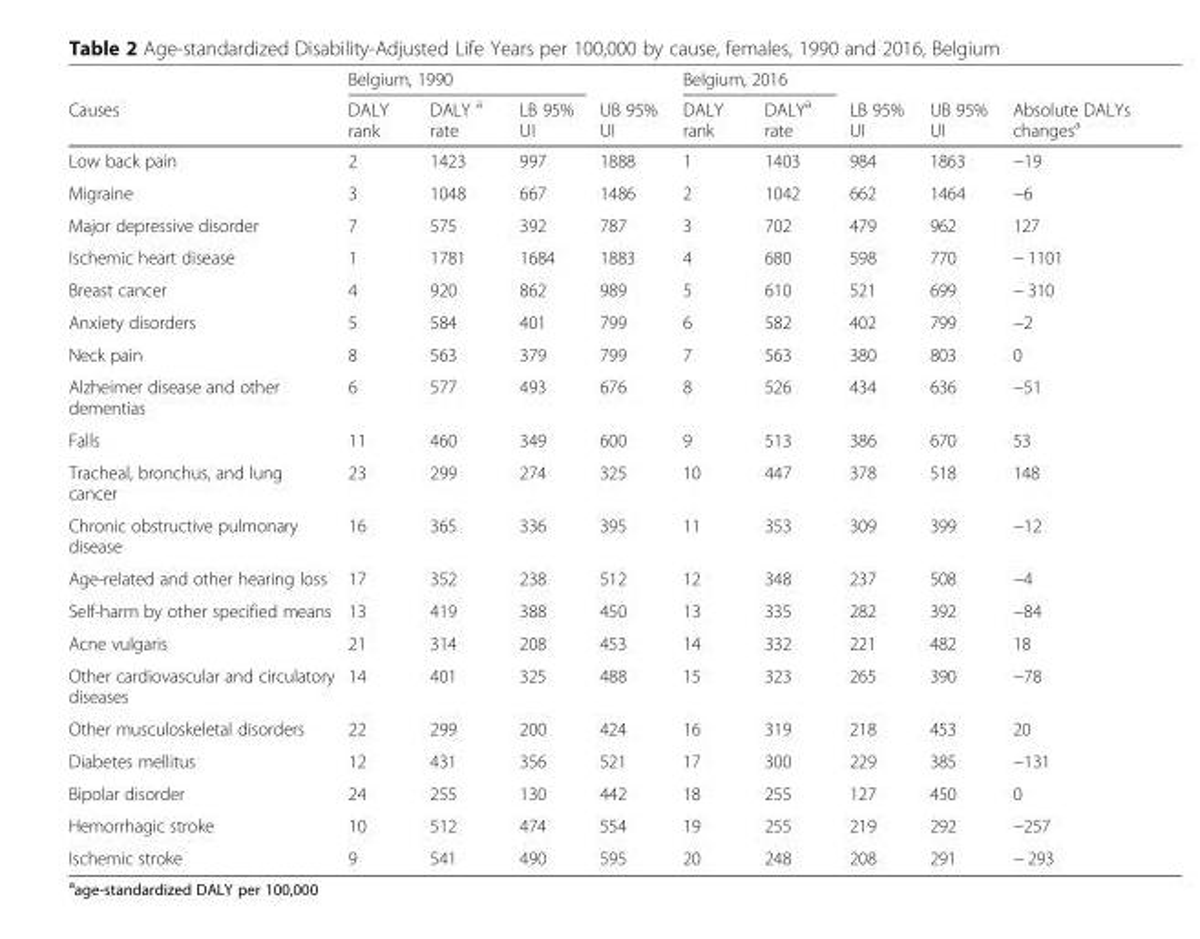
<table><thead><tr><td rowspan="2">Causes</td><td colspan="3">Belgium, 1990</td><td rowspan="2">UB 95% UI</td><td colspan="2">Belgium, 2016</td><td rowspan="2">LB 95% UI</td><td rowspan="2">UB 95% UI</td><td rowspan="2">Absolute DALYs changes<sup>a</sup></td></tr><tr><td>DALY rank</td><td>DALY <sup>a</sup> rate</td><td>LB 95% UI</td><td>DALY rank</td><td>DALY<sup>a</sup> rate</td></tr></thead><tbody><tr><td>Low back pain</td><td>2</td><td>1423</td><td>997</td><td>1888</td><td>1</td><td>1403</td><td>984</td><td>1863</td><td>−19</td></tr><tr><td>Migraine</td><td>3</td><td>1048</td><td>667</td><td>1486</td><td>2</td><td>1042</td><td>662</td><td>1464</td><td>−6</td></tr><tr><td>Major depressive disorder</td><td>7</td><td>575</td><td>392</td><td>787</td><td>3</td><td>702</td><td>479</td><td>962</td><td>127</td></tr><tr><td>Ischemic heart disease</td><td>1</td><td>1781</td><td>1684</td><td>1883</td><td>4</td><td>680</td><td>598</td><td>770</td><td>− 1101</td></tr><tr><td>Breast cancer</td><td>4</td><td>920</td><td>862</td><td>989</td><td>5</td><td>610</td><td>521</td><td>699</td><td>− 310</td></tr><tr><td>Anxiety disorders</td><td>5</td><td>584</td><td>401</td><td>799</td><td>6</td><td>582</td><td>402</td><td>799</td><td>−2</td></tr><tr><td>Neck pain</td><td>8</td><td>563</td><td>379</td><td>799</td><td>7</td><td>563</td><td>380</td><td>803</td><td>0</td></tr><tr><td>Alzheimer disease and other dementias</td><td>6</td><td>577</td><td>493</td><td>676</td><td>8</td><td>526</td><td>434</td><td>636</td><td>−51</td></tr><tr><td>Falls</td><td>11</td><td>460</td><td>349</td><td>600</td><td>9</td><td>513</td><td>386</td><td>670</td><td>53</td></tr><tr><td>Tracheal, bronchus, and lung cancer</td><td>23</td><td>299</td><td>274</td><td>325</td><td>10</td><td>447</td><td>378</td><td>518</td><td>148</td></tr><tr><td>Chronic obstructive pulmonary disease</td><td>16</td><td>365</td><td>336</td><td>395</td><td>11</td><td>353</td><td>309</td><td>399</td><td>−12</td></tr><tr><td>Age-related and other hearing loss</td><td>17</td><td>352</td><td>238</td><td>512</td><td>12</td><td>348</td><td>237</td><td>508</td><td>−4</td></tr><tr><td>Self-harm by other specified means</td><td>13</td><td>419</td><td>388</td><td>450</td><td>13</td><td>335</td><td>282</td><td>392</td><td>−84</td></tr><tr><td>Acne vulgaris</td><td>21</td><td>314</td><td>208</td><td>453</td><td>14</td><td>332</td><td>221</td><td>482</td><td>18</td></tr><tr><td>Other cardiovascular and circulatory diseases</td><td>14</td><td>401</td><td>325</td><td>488</td><td>15</td><td>323</td><td>265</td><td>390</td><td>−78</td></tr><tr><td>Other musculoskeletal disorders</td><td>22</td><td>299</td><td>200</td><td>424</td><td>16</td><td>319</td><td>218</td><td>453</td><td>20</td></tr><tr><td>Diabetes mellitus</td><td>12</td><td>431</td><td>356</td><td>521</td><td>17</td><td>300</td><td>229</td><td>385</td><td>−131</td></tr><tr><td>Bipolar disorder</td><td>24</td><td>255</td><td>130</td><td>442</td><td>18</td><td>255</td><td>127</td><td>450</td><td>0</td></tr><tr><td>Hemorrhagic stroke</td><td>10</td><td>512</td><td>474</td><td>554</td><td>19</td><td>255</td><td>219</td><td>292</td><td>−257</td></tr><tr><td>Ischemic stroke</td><td>9</td><td>541</td><td>490</td><td>595</td><td>20</td><td>248</td><td>208</td><td>291</td><td>− 293</td></tr></tbody></table>